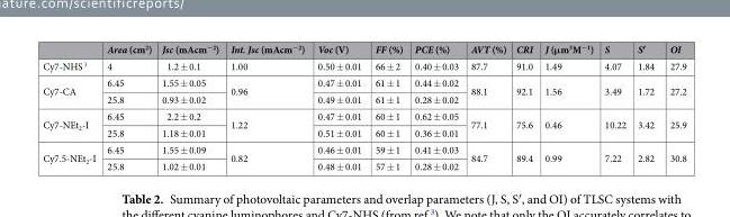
<table><thead><tr><td></td><td>Area (cm<sup>2</sup>)</td><td>Jsc (mAcm<sup>−2</sup>)</td><td>Int. Jsc (mAcm<sup>−2</sup>)</td><td>Voc (V)</td><td>FF (%)</td><td>PCE (%)</td><td>AVT (%)</td><td>CRI</td><td>J (μm<sup>3</sup>M<sup>−1</sup>)</td><td>S</td><td>S′</td><td>OI</td></tr></thead><tbody><tr><td>Cy7-NHS <sup>3</sup></td><td>4</td><td>1.2 ± 0.1</td><td>1.00</td><td>0.50 ± 0.01</td><td>66 ± 2</td><td>0.40 ± 0.03</td><td>87.7</td><td>91.0</td><td>1.49</td><td>4.07</td><td>1.84</td><td>27.9</td></tr><tr><td rowspan="2">Cy7-CA</td><td>6.45</td><td>1.55 ± 0.05</td><td rowspan="2">0.96</td><td>0.47 ± 0.01</td><td>61 ± 1</td><td>0.44 ± 0.02</td><td rowspan="2">88.1</td><td rowspan="2">92.1</td><td rowspan="2">1.56</td><td rowspan="2">3.49</td><td rowspan="2">1.72</td><td rowspan="2">27.2</td></tr><tr><td>25.8</td><td>0.93 ± 0.02</td><td>0.49 ± 0.01</td><td>61 ± 1</td><td>0.28 ± 0.02</td></tr><tr><td rowspan="2">Cy7-NEt<sub>2</sub>-I</td><td>6.45</td><td>2.2 ± 0.2</td><td rowspan="2">1.22</td><td>0.47 ± 0.01</td><td>60 ± 1</td><td>0.62 ± 0.05</td><td rowspan="2">77.1</td><td rowspan="2">75.6</td><td rowspan="2">0.46</td><td rowspan="2">10.22</td><td rowspan="2">3.42</td><td rowspan="2">25.9</td></tr><tr><td>25.8</td><td>1.18 ± 0.01</td><td>0.51 ± 0.01</td><td>60 ± 1</td><td>0.36 ± 0.01</td></tr><tr><td rowspan="2">Cy7.5-NEt<sub>2</sub>-I</td><td>6.45</td><td>1.55 ± 0.09</td><td rowspan="2">0.82</td><td>0.46 ± 0.01</td><td>59 ± 1</td><td>0.41 ± 0.03</td><td rowspan="2">84.7</td><td rowspan="2">89.4</td><td rowspan="2">0.99</td><td rowspan="2">7.22</td><td rowspan="2">2.82</td><td rowspan="2">30.8</td></tr><tr><td>25.8</td><td>1.02 ± 0.01</td><td>0.48 ± 0.01</td><td>57 ± 1</td><td>0.28 ± 0.02</td></tr></tbody></table>